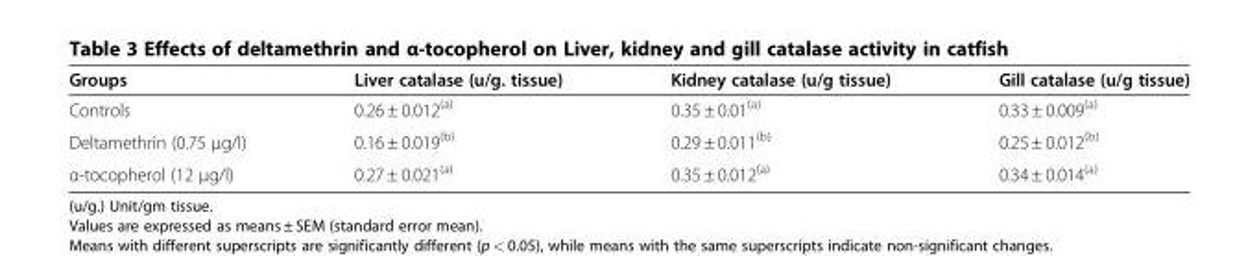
<table><thead><tr><td>Groups</td><td>Liver catalase (u/g. tissue)</td><td>Kidney catalase (u/g tissue)</td><td>Gill catalase (u/g tissue)</td></tr></thead><tbody><tr><td>Controls</td><td>0.26 ± 0.012<sup>(a)</sup></td><td>0.35 ± 0.01<sup>(a)</sup></td><td>0.33 ± 0.009<sup>(a)</sup></td></tr><tr><td>Deltamethrin (0.75 μg/l)</td><td>0.16 ± 0.019<sup>(b)</sup></td><td>0.29 ± 0.011<sup>(b)</sup></td><td>0.25 ± 0.012<sup>(b)</sup></td></tr><tr><td>α-tocopherol (12 μg/l)</td><td>0.27 ± 0.021<sup>(a)</sup></td><td>0.35 ± 0.012<sup>(a)</sup></td><td>0.34 ± 0.014<sup>(a)</sup></td></tr></tbody></table>